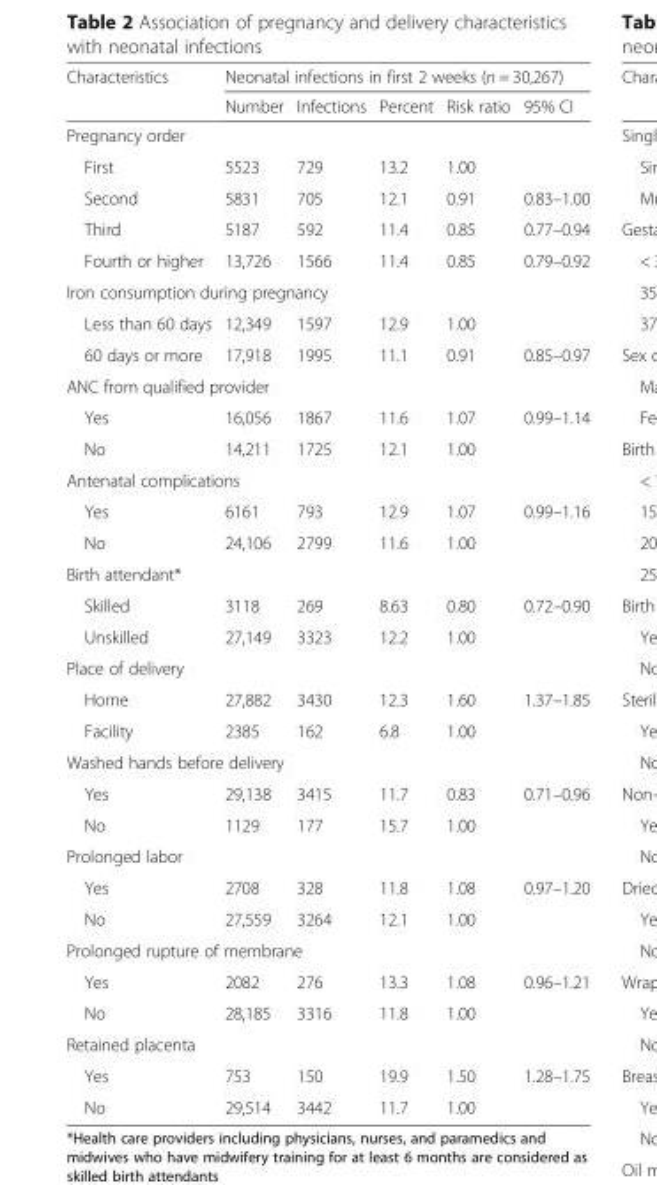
<table><thead><tr><td rowspan="2">Characteristics</td><td colspan="5">Neonatal infections in first 2 weeks (n = 30,267)</td></tr><tr><td>Number</td><td>Infections</td><td>Percent</td><td>Risk ratio</td><td>95% CI</td></tr></thead><tbody><tr><td colspan="6">Pregnancy order</td></tr><tr><td>First</td><td>5523</td><td>729</td><td>13.2</td><td>1.00</td><td></td></tr><tr><td>Second</td><td>5831</td><td>705</td><td>12.1</td><td>0.91</td><td>0.83–1.00</td></tr><tr><td>Third</td><td>5187</td><td>592</td><td>11.4</td><td>0.85</td><td>0.77–0.94</td></tr><tr><td>Fourth or higher</td><td>13,726</td><td>1566</td><td>11.4</td><td>0.85</td><td>0.79–0.92</td></tr><tr><td colspan="6">Iron consumption during pregnancy</td></tr><tr><td>Less than 60 days</td><td>12,349</td><td>1597</td><td>12.9</td><td>1.00</td><td></td></tr><tr><td>60 days or more</td><td>17,918</td><td>1995</td><td>11.1</td><td>0.91</td><td>0.85–0.97</td></tr><tr><td colspan="6">ANC from qualified provider</td></tr><tr><td>Yes</td><td>16,056</td><td>1867</td><td>11.6</td><td>1.07</td><td>0.99–1.14</td></tr><tr><td>No</td><td>14,211</td><td>1725</td><td>12.1</td><td>1.00</td><td></td></tr><tr><td colspan="6">Antenatal complications</td></tr><tr><td>Yes</td><td>6161</td><td>793</td><td>12.9</td><td>1.07</td><td>0.99–1.16</td></tr><tr><td>No</td><td>24,106</td><td>2799</td><td>11.6</td><td>1.00</td><td></td></tr><tr><td colspan="6">Birth attendant*</td></tr><tr><td>Skilled</td><td>3118</td><td>269</td><td>8.63</td><td>0.80</td><td>0.72–0.90</td></tr><tr><td>Unskilled</td><td>27,149</td><td>3323</td><td>12.2</td><td>1.00</td><td></td></tr><tr><td colspan="6">Place of delivery</td></tr><tr><td>Home</td><td>27,882</td><td>3430</td><td>12.3</td><td>1.60</td><td>1.37–1.85</td></tr><tr><td>Facility</td><td>2385</td><td>162</td><td>6.8</td><td>1.00</td><td></td></tr><tr><td colspan="6">Washed hands before delivery</td></tr><tr><td>Yes</td><td>29,138</td><td>3415</td><td>11.7</td><td>0.83</td><td>0.71–0.96</td></tr><tr><td>No</td><td>1129</td><td>177</td><td>15.7</td><td>1.00</td><td></td></tr><tr><td colspan="6">Prolonged labor</td></tr><tr><td>Yes</td><td>2708</td><td>328</td><td>11.8</td><td>1.08</td><td>0.97–1.20</td></tr><tr><td>No</td><td>27,559</td><td>3264</td><td>12.1</td><td>1.00</td><td></td></tr><tr><td colspan="6">Prolonged rupture of membrane</td></tr><tr><td>Yes</td><td>2082</td><td>276</td><td>13.3</td><td>1.08</td><td>0.96–1.21</td></tr><tr><td>No</td><td>28,185</td><td>3316</td><td>11.8</td><td>1.00</td><td></td></tr><tr><td colspan="6">Retained placenta</td></tr><tr><td>Yes</td><td>753</td><td>150</td><td>19.9</td><td>1.50</td><td>1.28–1.75</td></tr><tr><td>No</td><td>29,514</td><td>3442</td><td>11.7</td><td>1.00</td><td></td></tr></tbody></table>